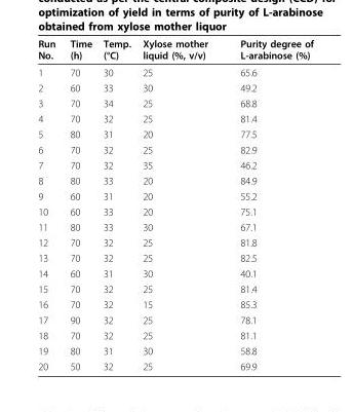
<table><thead><tr><td>Run No.</td><td>Time (h)</td><td>Temp. (°C)</td><td>Xylose mother liquid (%, v/v)</td><td>Purity degree of L-arabinose (%)</td></tr></thead><tbody><tr><td>1</td><td>70</td><td>30</td><td>25</td><td>65.6</td></tr><tr><td>2</td><td>60</td><td>33</td><td>30</td><td>49.2</td></tr><tr><td>3</td><td>70</td><td>34</td><td>25</td><td>68.8</td></tr><tr><td>4</td><td>70</td><td>32</td><td>25</td><td>81.4</td></tr><tr><td>5</td><td>80</td><td>31</td><td>20</td><td>77.5</td></tr><tr><td>6</td><td>70</td><td>32</td><td>25</td><td>82.9</td></tr><tr><td>7</td><td>70</td><td>32</td><td>35</td><td>46.2</td></tr><tr><td>8</td><td>80</td><td>33</td><td>20</td><td>84.9</td></tr><tr><td>9</td><td>60</td><td>31</td><td>20</td><td>55.2</td></tr><tr><td>10</td><td>60</td><td>33</td><td>20</td><td>75.1</td></tr><tr><td>11</td><td>80</td><td>33</td><td>30</td><td>67.1</td></tr><tr><td>12</td><td>70</td><td>32</td><td>25</td><td>81.8</td></tr><tr><td>13</td><td>70</td><td>32</td><td>25</td><td>82.5</td></tr><tr><td>14</td><td>60</td><td>31</td><td>30</td><td>40.1</td></tr><tr><td>15</td><td>70</td><td>32</td><td>25</td><td>81.4</td></tr><tr><td>16</td><td>70</td><td>32</td><td>15</td><td>85.3</td></tr><tr><td>17</td><td>90</td><td>32</td><td>25</td><td>78.1</td></tr><tr><td>18</td><td>70</td><td>32</td><td>25</td><td>81.1</td></tr><tr><td>19</td><td>80</td><td>31</td><td>30</td><td>58.8</td></tr><tr><td>20</td><td>50</td><td>32</td><td>25</td><td>69.9</td></tr></tbody></table>